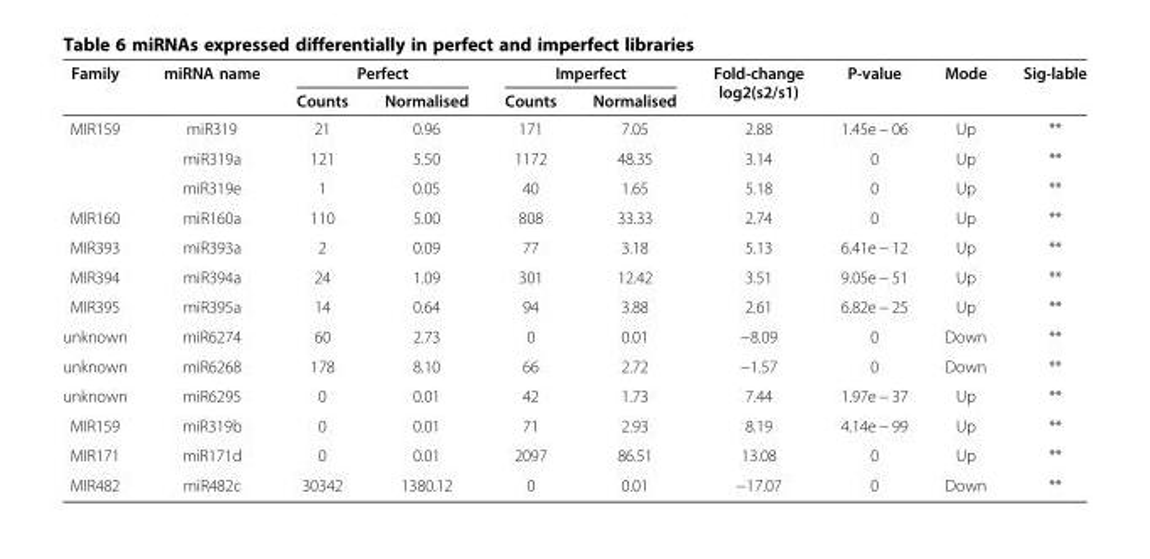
<table><thead><tr><td rowspan="2">Family</td><td rowspan="2">miRNA name</td><td colspan="2">Perfect</td><td colspan="2">Imperfect</td><td rowspan="2">Fold-change log2(s2/s1)</td><td rowspan="2">P-value</td><td rowspan="2">Mode</td><td rowspan="2">Sig-lable</td></tr><tr><td>Counts</td><td>Normalised</td><td>Counts</td><td>Normalised</td></tr></thead><tbody><tr><td rowspan="3">MIR159</td><td>miR319</td><td>21</td><td>0.96</td><td>171</td><td>7.05</td><td>2.88</td><td>1.45e − 06</td><td>Up</td><td>**</td></tr><tr><td>miR319a</td><td>121</td><td>5.50</td><td>1172</td><td>48.35</td><td>3.14</td><td>0</td><td>Up</td><td>**</td></tr><tr><td>miR319e</td><td>1</td><td>0.05</td><td>40</td><td>1.65</td><td>5.18</td><td>0</td><td>Up</td><td>**</td></tr><tr><td>MIR160</td><td>miR160a</td><td>110</td><td>5.00</td><td>808</td><td>33.33</td><td>2.74</td><td>0</td><td>Up</td><td>**</td></tr><tr><td>MIR393</td><td>miR393a</td><td>2</td><td>0.09</td><td>77</td><td>3.18</td><td>5.13</td><td>6.41e − 12</td><td>Up</td><td>**</td></tr><tr><td>MIR394</td><td>miR394a</td><td>24</td><td>1.09</td><td>301</td><td>12.42</td><td>3.51</td><td>9.05e − 51</td><td>Up</td><td>**</td></tr><tr><td>MIR395</td><td>miR395a</td><td>14</td><td>0.64</td><td>94</td><td>3.88</td><td>2.61</td><td>6.82e − 25</td><td>Up</td><td>**</td></tr><tr><td>unknown</td><td>miR6274</td><td>60</td><td>2.73</td><td>0</td><td>0.01</td><td>−8.09</td><td>0</td><td>Down</td><td>**</td></tr><tr><td>unknown</td><td>miR6268</td><td>178</td><td>8.10</td><td>66</td><td>2.72</td><td>−1.57</td><td>0</td><td>Down</td><td>**</td></tr><tr><td>unknown</td><td>miR6295</td><td>0</td><td>0.01</td><td>42</td><td>1.73</td><td>7.44</td><td>1.97e − 37</td><td>Up</td><td>**</td></tr><tr><td>MIR159</td><td>miR319b</td><td>0</td><td>0.01</td><td>71</td><td>2.93</td><td>8.19</td><td>4.14e − 99</td><td>Up</td><td>**</td></tr><tr><td>MIR171</td><td>miR171d</td><td>0</td><td>0.01</td><td>2097</td><td>86.51</td><td>13.08</td><td>0</td><td>Up</td><td>**</td></tr><tr><td>MIR482</td><td>miR482c</td><td>30342</td><td>1380.12</td><td>0</td><td>0.01</td><td>−17.07</td><td>0</td><td>Down</td><td>**</td></tr></tbody></table>